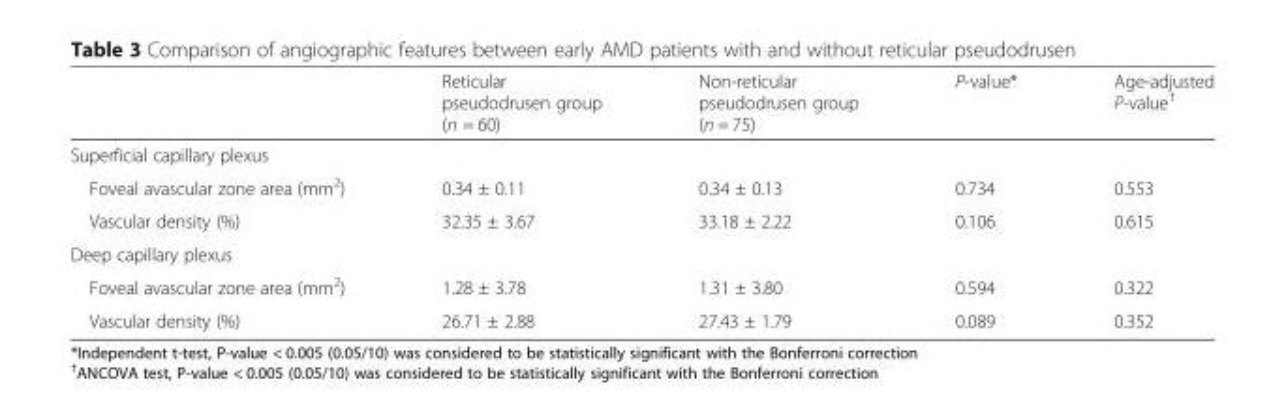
<table><thead><tr><td></td><td>Reticular pseudodrusen group (n = 60)</td><td>Non-reticular pseudodrusen group (n = 75)</td><td>P-value*</td><td>Age-adjusted P-value<sup>†</sup></td></tr></thead><tbody><tr><td colspan="5">Superficial capillary plexus</td></tr><tr><td>Foveal avascular zone area (mm<sup>2</sup>)</td><td>0.34 ± 0.11</td><td>0.34 ± 0.13</td><td>0.734</td><td>0.553</td></tr><tr><td>Vascular density (%)</td><td>32.35 ± 3.67</td><td>33.18 ± 2.22</td><td>0.106</td><td>0.615</td></tr><tr><td colspan="5">Deep capillary plexus</td></tr><tr><td>Foveal avascular zone area (mm<sup>2</sup>)</td><td>1.28 ± 3.78</td><td>1.31 ± 3.80</td><td>0.594</td><td>0.322</td></tr><tr><td>Vascular density (%)</td><td>26.71 ± 2.88</td><td>27.43 ± 1.79</td><td>0.089</td><td>0.352</td></tr></tbody></table>